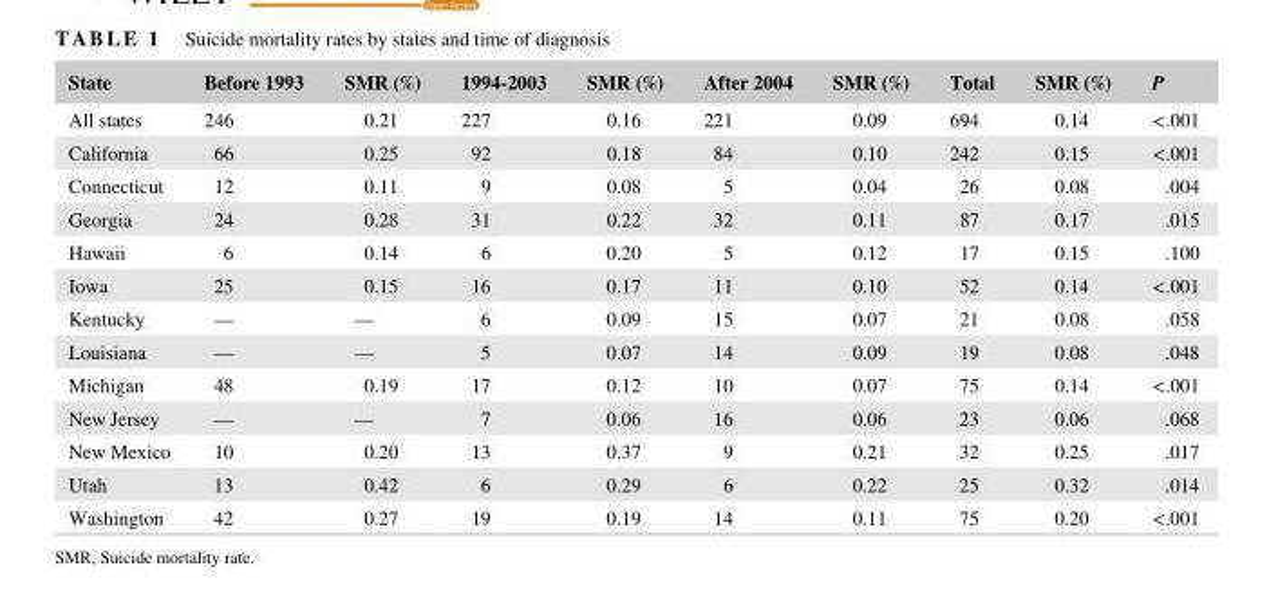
<table><thead><tr><td>State</td><td>Before 1993</td><td>SMR (%)</td><td>1994- 2003</td><td>SMR (%)</td><td>After 2004</td><td>SMR (%)</td><td>Total</td><td>SMR (%)</td><td>P</td></tr></thead><tbody><tr><td>All states</td><td>246</td><td>0.21</td><td>227</td><td>0.16</td><td>221</td><td>0.09</td><td>694</td><td>0.14</td><td>&lt;.001</td></tr><tr><td>California</td><td>66</td><td>0.25</td><td>92</td><td>0.18</td><td>84</td><td>0.10</td><td>242</td><td>0.15</td><td>&lt;.001</td></tr><tr><td>Connecticut</td><td>12</td><td>0.11</td><td>9</td><td>0.08</td><td>5</td><td>0.04</td><td>26</td><td>0.08</td><td>.004</td></tr><tr><td>Georgia</td><td>24</td><td>0.28</td><td>31</td><td>0.22</td><td>32</td><td>0.11</td><td>87</td><td>0.17</td><td>.015</td></tr><tr><td>Hawaii</td><td>6</td><td>0.14</td><td>6</td><td>0.20</td><td>5</td><td>0.12</td><td>17</td><td>0.15</td><td>.100</td></tr><tr><td>Iowa</td><td>25</td><td>0.15</td><td>16</td><td>0.17</td><td>11</td><td>0.10</td><td>52</td><td>0.14</td><td>&lt;.001</td></tr><tr><td>Kentucky</td><td>—</td><td>—</td><td>6</td><td>0.09</td><td>15</td><td>0.07</td><td>21</td><td>0.08</td><td>.058</td></tr><tr><td>Louisiana</td><td>—</td><td>—</td><td>5</td><td>0.07</td><td>14</td><td>0.09</td><td>19</td><td>0.08</td><td>.048</td></tr><tr><td>Michigan</td><td>48</td><td>0.19</td><td>17</td><td>0.12</td><td>10</td><td>0.07</td><td>75</td><td>0.14</td><td>&lt;.001</td></tr><tr><td>New Jersey</td><td>—</td><td>—</td><td>7</td><td>0.06</td><td>16</td><td>0.06</td><td>23</td><td>0.06</td><td>.068</td></tr><tr><td>New Mexico</td><td>10</td><td>0.20</td><td>13</td><td>0.37</td><td>9</td><td>0.21</td><td>32</td><td>0.25</td><td>.017</td></tr><tr><td>Utah</td><td>13</td><td>0.42</td><td>6</td><td>0.29</td><td>6</td><td>0.22</td><td>25</td><td>0.32</td><td>.014</td></tr><tr><td>Washington</td><td>42</td><td>0.27</td><td>19</td><td>0.19</td><td>14</td><td>0.11</td><td>75</td><td>0.20</td><td>&lt;.001</td></tr></tbody></table>